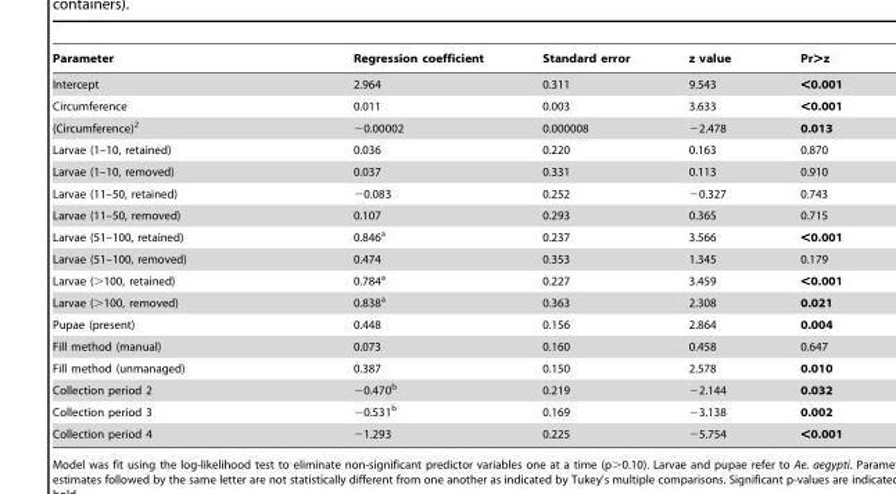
<table><thead><tr><td>Parameter</td><td>Regression coefficient</td><td>Standard error</td><td>z value</td><td>Pr&gt;z</td></tr></thead><tbody><tr><td>Intercept</td><td>2.964</td><td>0.311</td><td>9.543</td><td>&lt;0.001</td></tr><tr><td>Circumference</td><td>0.011</td><td>0.003</td><td>3.633</td><td>&lt;0.001</td></tr><tr><td>(Circumference)<sup>2</sup></td><td>−0.00002</td><td>0.000008</td><td>−2.478</td><td>0.013</td></tr><tr><td>Larvae (1–10, retained)</td><td>0.036</td><td>0.220</td><td>0.163</td><td>0.870</td></tr><tr><td>Larvae (1–10, removed)</td><td>0.037</td><td>0.331</td><td>0.113</td><td>0.910</td></tr><tr><td>Larvae (11–50, retained)</td><td>−0.083</td><td>0.252</td><td>−0.327</td><td>0.743</td></tr><tr><td>Larvae (11–50, removed)</td><td>0.107</td><td>0.293</td><td>0.365</td><td>0.715</td></tr><tr><td>Larvae (51–100, retained)</td><td>0.846<sup>a</sup></td><td>0.237</td><td>3.566</td><td>&lt;0.001</td></tr><tr><td>Larvae (51–100, removed)</td><td>0.474</td><td>0.353</td><td>1.345</td><td>0.179</td></tr><tr><td>Larvae (&gt;100, retained)</td><td>0.784<sup>a</sup></td><td>0.227</td><td>3.459</td><td>&lt;0.001</td></tr><tr><td>Larvae (&gt;100, removed)</td><td>0.838<sup>a</sup></td><td>0.363</td><td>2.308</td><td>0.021</td></tr><tr><td>Pupae (present)</td><td>0.448</td><td>0.156</td><td>2.864</td><td>0.004</td></tr><tr><td>Fill method (manual)</td><td>0.073</td><td>0.160</td><td>0.458</td><td>0.647</td></tr><tr><td>Fill method (unmanaged)</td><td>0.387</td><td>0.150</td><td>2.578</td><td>0.010</td></tr><tr><td>Collection period 2</td><td>−0.470<sup>b</sup></td><td>0.219</td><td>−2.144</td><td>0.032</td></tr><tr><td>Collection period 3</td><td>−0.531<sup>b</sup></td><td>0.169</td><td>−3.138</td><td>0.002</td></tr><tr><td>Collection period 4</td><td>−1.293</td><td>0.225</td><td>−5.754</td><td>&lt;0.001</td></tr></tbody></table>